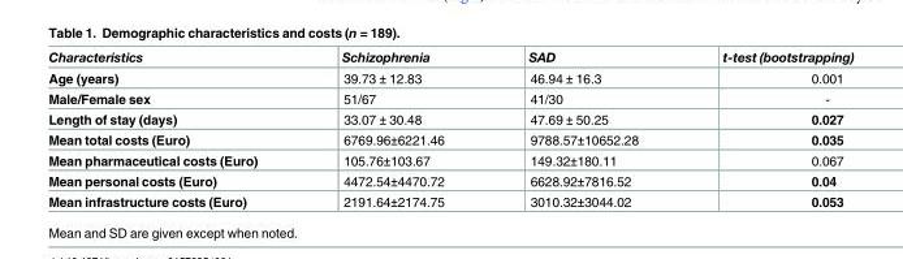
<table><thead><tr><td>Characteristics</td><td>Schizophrenia</td><td>SAD</td><td>t-test (bootstrapping)</td></tr></thead><tbody><tr><td>Age (years)</td><td>39.73 ± 12.83</td><td>46.94 ± 16.3</td><td>0.001</td></tr><tr><td>Male/Female sex</td><td>51/67</td><td>41/30</td><td>-</td></tr><tr><td>Length of stay (days)</td><td>33.07 ± 30.48</td><td>47.69 ± 50.25</td><td>0.027</td></tr><tr><td>Mean total costs (Euro)</td><td>6769.96±6221.46</td><td>9788.57±10652.28</td><td>0.035</td></tr><tr><td>Mean pharmaceutical costs (Euro)</td><td>105.76±103.67</td><td>149.32±180.11</td><td>0.067</td></tr><tr><td>Mean personal costs (Euro)</td><td>4472.54±4470.72</td><td>6628.92±7816.52</td><td>0.04</td></tr><tr><td>Mean infrastructure costs (Euro)</td><td>2191.64±2174.75</td><td>3010.32±3044.02</td><td>0.053</td></tr></tbody></table>